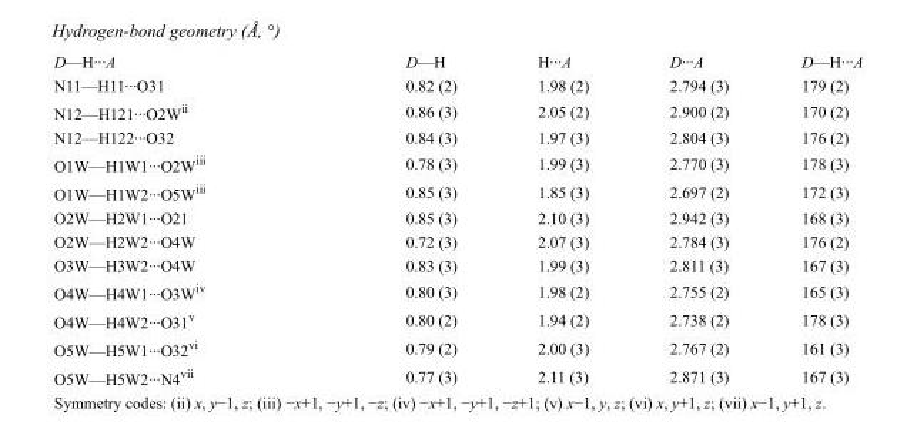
<table><tbody><tr><td>D—H···A</td><td>D—H</td><td>H···A</td><td>D···A</td><td>D—H···A</td></tr><tr><td>N11—H11···O31</td><td>0.82 (2)</td><td>1.98 (2)</td><td>2.794 (3)</td><td>179 (2)</td></tr><tr><td>N12—H121···O2W<sup>ii</sup></td><td>0.86 (3)</td><td>2.05 (2)</td><td>2.900 (2)</td><td>170 (2)</td></tr><tr><td>N12—H122···O32</td><td>0.84 (3)</td><td>1.97 (3)</td><td>2.804 (3)</td><td>176 (2)</td></tr><tr><td>O1W—H1W1···O2W<sup>iii</sup></td><td>0.78 (3)</td><td>1.99 (3)</td><td>2.770 (3)</td><td>178 (3)</td></tr><tr><td>O1W—H1W2···O5W<sup>iii</sup></td><td>0.85 (3)</td><td>1.85 (3)</td><td>2.697 (2)</td><td>172 (3)</td></tr><tr><td>O2W—H2W1···O21</td><td>0.85 (3)</td><td>2.10 (3)</td><td>2.942 (3)</td><td>168 (3)</td></tr><tr><td>O2W—H2W2···O4W</td><td>0.72 (3)</td><td>2.07 (3)</td><td>2.784 (3)</td><td>176 (2)</td></tr><tr><td>O3W—H3W2···O4W</td><td>0.83 (3)</td><td>1.99 (3)</td><td>2.811 (3)</td><td>167 (3)</td></tr><tr><td>O4W—H4W1···O3W<sup>iv</sup></td><td>0.80 (3)</td><td>1.98 (2)</td><td>2.755 (2)</td><td>165 (3)</td></tr><tr><td>O4W—H4W2···O31<sup>v</sup></td><td>0.80 (2)</td><td>1.94 (2)</td><td>2.738 (2)</td><td>178 (3)</td></tr><tr><td>O5W—H5W1···O32<sup>vi</sup></td><td>0.79 (2)</td><td>2.00 (3)</td><td>2.767 (2)</td><td>161 (3)</td></tr><tr><td>O5W—H5W2···N4<sup>vii</sup></td><td>0.77 (3)</td><td>2.11 (3)</td><td>2.871 (3)</td><td>167 (3)</td></tr></tbody></table>